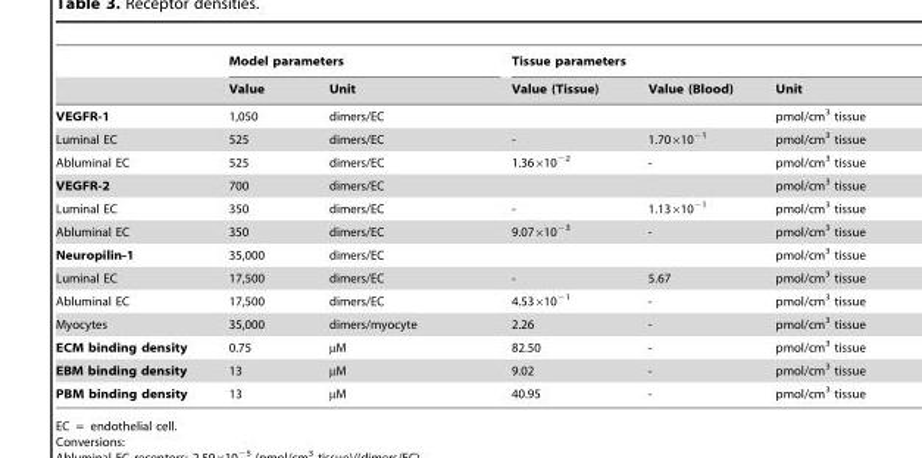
<table><thead><tr><td rowspan="2"></td><td colspan="2">Model parameters</td><td colspan="3">Tissue parameters</td></tr><tr><td>Value</td><td>Unit</td><td>Value (Tissue)</td><td>Value (Blood)</td><td>Unit</td></tr></thead><tbody><tr><td>VEGFR-1</td><td>1,050</td><td>dimers/EC</td><td></td><td></td><td>pmol/cm<sup>3</sup> tissue</td></tr><tr><td>Luminal EC</td><td>525</td><td>dimers/EC</td><td>-</td><td>1.70×10<sup>−1</sup></td><td>pmol/cm<sup>3</sup> tissue</td></tr><tr><td>Abluminal EC</td><td>525</td><td>dimers/EC</td><td>1.36×10<sup>−2</sup></td><td>-</td><td>pmol/cm<sup>3</sup> tissue</td></tr><tr><td>VEGFR-2</td><td>700</td><td>dimers/EC</td><td></td><td></td><td>pmol/cm<sup>3</sup> tissue</td></tr><tr><td>Luminal EC</td><td>350</td><td>dimers/EC</td><td>-</td><td>1.13×10<sup>−1</sup></td><td>pmol/cm<sup>3</sup> tissue</td></tr><tr><td>Abluminal EC</td><td>350</td><td>dimers/EC</td><td>9.07×10<sup>−3</sup></td><td>-</td><td>pmol/cm<sup>3</sup> tissue</td></tr><tr><td>Neuropilin-1</td><td>35,000</td><td>dimers/EC</td><td></td><td></td><td>pmol/cm<sup>3</sup> tissue</td></tr><tr><td>Luminal EC</td><td>17,500</td><td>dimers/EC</td><td>-</td><td>5.67</td><td>pmol/cm<sup>3</sup> tissue</td></tr><tr><td>Abluminal EC</td><td>17,500</td><td>dimers/EC</td><td>4.53×10<sup>−1</sup></td><td>-</td><td>pmol/cm<sup>3</sup> tissue</td></tr><tr><td>Myocytes</td><td>35,000</td><td>dimers/myocyte</td><td>2.26</td><td>-</td><td>pmol/cm<sup>3</sup> tissue</td></tr><tr><td>ECM binding density</td><td>0.75</td><td>µM</td><td>82.50</td><td>-</td><td>pmol/cm<sup>3</sup> tissue</td></tr><tr><td>EBM binding density</td><td>13</td><td>µM</td><td>9.02</td><td>-</td><td>pmol/cm<sup>3</sup> tissue</td></tr><tr><td>PBM binding density</td><td>13</td><td>µM</td><td>40.95</td><td>-</td><td>pmol/cm<sup>3</sup> tissue</td></tr></tbody></table>